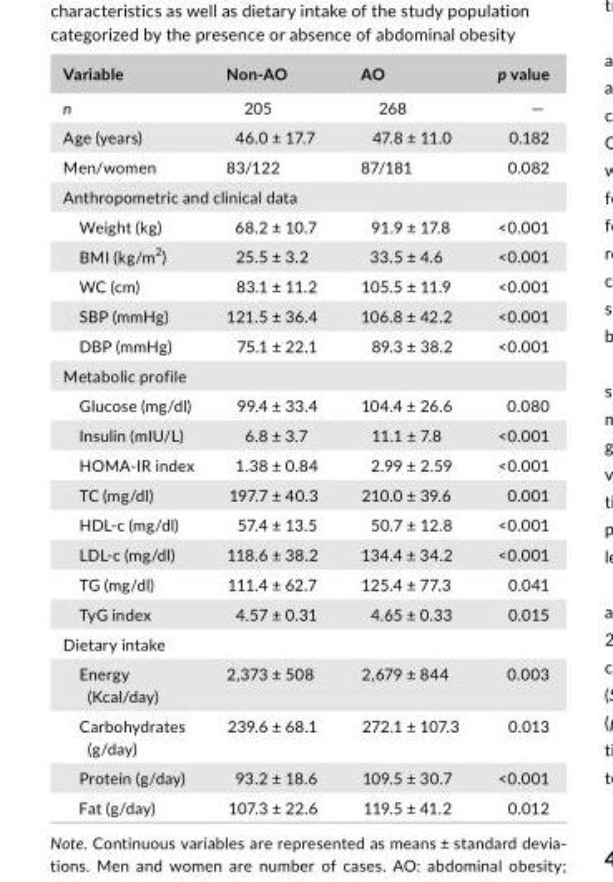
<table><thead><tr><td>Variable</td><td>Non- AO</td><td>AO</td><td>p value</td></tr></thead><tbody><tr><td>n</td><td>205</td><td>268</td><td>—</td></tr><tr><td>Age (years)</td><td>46.0 ± 17.7</td><td>47.8 ± 11.0</td><td>0.182</td></tr><tr><td>Men/women</td><td>83/122</td><td>87/181</td><td>0.082</td></tr><tr><td colspan="4">Anthropometric and clinical data</td></tr><tr><td>Weight (kg)</td><td>68.2 ± 10.7</td><td>91.9 ± 17.8</td><td>&lt;0.001</td></tr><tr><td>BMI (kg/m<sup>2</sup>)</td><td>25.5 ± 3.2</td><td>33.5 ± 4.6</td><td>&lt;0.001</td></tr><tr><td>WC (cm)</td><td>83.1 ± 11.2</td><td>105.5 ± 11.9</td><td>&lt;0.001</td></tr><tr><td>SBP (mmHg)</td><td>121.5 ± 36.4</td><td>106.8 ± 42.2</td><td>&lt;0.001</td></tr><tr><td>DBP (mmHg)</td><td>75.1 ± 22.1</td><td>89.3 ± 38.2</td><td>&lt;0.001</td></tr><tr><td colspan="4">Metabolic profile</td></tr><tr><td>Glucose (mg/dl)</td><td>99.4 ± 33.4</td><td>104.4 ± 26.6</td><td>0.080</td></tr><tr><td>Insulin (mIU/L)</td><td>6.8 ± 3.7</td><td>11.1 ± 7.8</td><td>&lt;0.001</td></tr><tr><td>HOMA- IR index</td><td>1.38 ± 0.84</td><td>2.99 ± 2.59</td><td>&lt;0.001</td></tr><tr><td>TC (mg/dl)</td><td>197.7 ± 40.3</td><td>210.0 ± 39.6</td><td>0.001</td></tr><tr><td>HDL- c (mg/dl)</td><td>57.4 ± 13.5</td><td>50.7 ± 12.8</td><td>&lt;0.001</td></tr><tr><td>LDL- c (mg/dl)</td><td>118.6 ± 38.2</td><td>134.4 ± 34.2</td><td>&lt;0.001</td></tr><tr><td>TG (mg/dl)</td><td>111.4 ± 62.7</td><td>125.4 ± 77.3</td><td>0.041</td></tr><tr><td>TyG index</td><td>4.57 ± 0.31</td><td>4.65 ± 0.33</td><td>0.015</td></tr><tr><td colspan="4">Dietary intake</td></tr><tr><td>Energy (Kcal/day)</td><td>2,373 ± 508</td><td>2,679 ± 844</td><td>0.003</td></tr><tr><td>Carbohydrates (g/day)</td><td>239.6 ± 68.1</td><td>272.1 ± 107.3</td><td>0.013</td></tr><tr><td>Protein (g/day)</td><td>93.2 ± 18.6</td><td>109.5 ± 30.7</td><td>&lt;0.001</td></tr><tr><td>Fat (g/day)</td><td>107.3 ± 22.6</td><td>119.5 ± 41.2</td><td>0.012</td></tr></tbody></table>